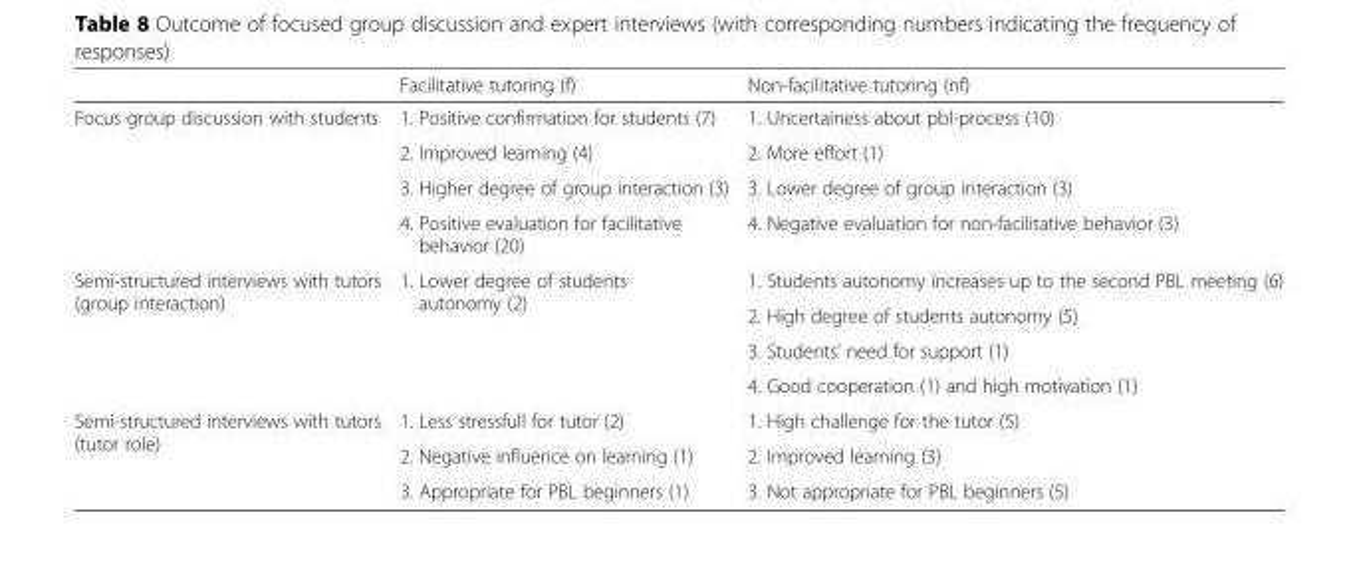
<table><thead><tr><td></td><td>Facilitative tutoring (f)</td><td>Non-facilitative tutoring (nf)</td></tr></thead><tbody><tr><td rowspan="4">Focus group discussion with students</td><td>1. Positive confirmation for students (7)</td><td>1. Uncertainess about pbl-process (10)</td></tr><tr><td>2. Improved learning (4)</td><td>2. More effort (1)</td></tr><tr><td>3. Higher degree of group interaction (3)</td><td>3. Lower degree of group interaction (3)</td></tr><tr><td>4. Positive evaluation for facilitative behavior (20)</td><td>4. Negative evaluation for non-facilitative behavior (3)</td></tr><tr><td rowspan="4">Semi-structured interviews with tutors (group interaction)</td><td rowspan="4">1. Lower degree of students autonomy (2)</td><td>1. Students autonomy increases up to the second PBL meeting (6)</td></tr><tr><td>2. High degree of students autonomy (5)</td></tr><tr><td>3. Students’ need for support (1)</td></tr><tr><td>4. Good cooperation (1) and high motivation (1)</td></tr><tr><td rowspan="3">Semi-structured interviews with tutors (tutor role)</td><td>1. Less stressfull for tutor (2)</td><td>1. High challenge for the tutor (5)</td></tr><tr><td>2. Negative influence on learning (1)</td><td>2. Improved learning (3)</td></tr><tr><td>3. Appropriate for PBL beginners (1)</td><td>3. Not appropriate for PBL beginners (5)</td></tr></tbody></table>